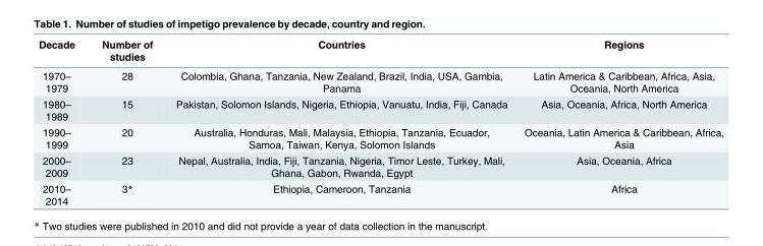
<table><thead><tr><td>Decade</td><td>Number of studies</td><td>Countries</td><td>Regions</td></tr></thead><tbody><tr><td>1970– 1979</td><td>28</td><td>Colombia, Ghana, Tanzania, New Zealand, Brazil, India, USA, Gambia, Panama</td><td>Latin America &amp; Caribbean, Africa, Asia, Oceania, North America</td></tr><tr><td>1980– 1989</td><td>15</td><td>Pakistan, Solomon Islands, Nigeria, Ethiopia, Vanuatu, India, Fiji, Canada</td><td>Asia, Oceania, Africa, North America</td></tr><tr><td>1990– 1999</td><td>20</td><td>Australia, Honduras, Mali, Malaysia, Ethiopia, Tanzania, Ecuador, Samoa, Taiwan, Kenya, Solomon Islands</td><td>Oceania, Latin America &amp; Caribbean, Africa, Asia</td></tr><tr><td>2000– 2009</td><td>23</td><td>Nepal, Australia, India, Fiji, Tanzania, Nigeria, Timor Leste, Turkey, Mali, Ghana, Gabon, Rwanda, Egypt</td><td>Asia, Oceania, Africa</td></tr><tr><td>2010– 2014</td><td>3*</td><td>Ethiopia, Cameroon, Tanzania</td><td>Africa</td></tr></tbody></table>